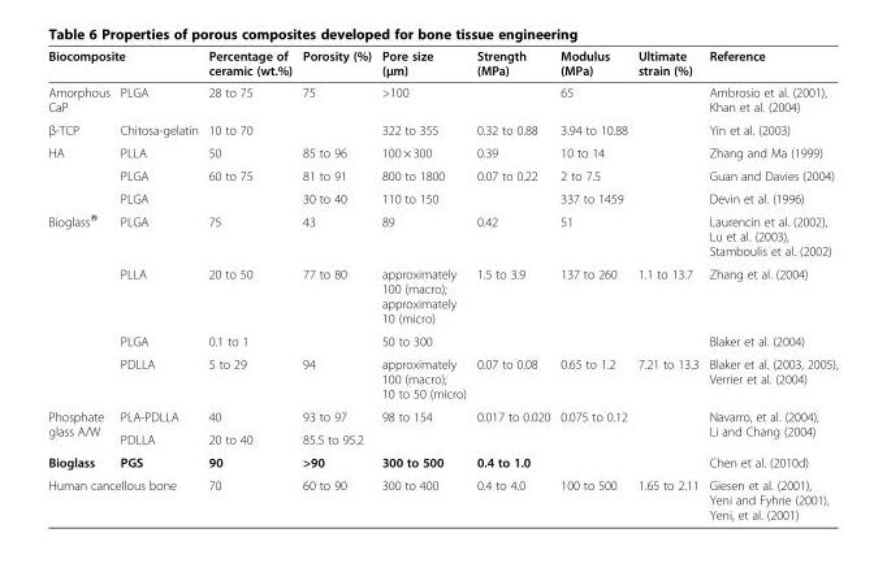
<table><thead><tr><td colspan="2">Biocomposite</td><td rowspan="2">Percentage of ceramic (wt.%) 28 to 75</td><td rowspan="2">Porosity (%) 75</td><td rowspan="2">Pore size (μm) &gt;100</td><td rowspan="2">Strength (MPa)</td><td rowspan="2">Modulus (MPa) 65</td><td rowspan="2">Ultimate strain (%)</td><td rowspan="2">Reference Ambrosio et al. (2001), Khan et al. (2004)</td></tr><tr><td>Amorphous CaP</td><td>PLGA</td></tr></thead><tbody><tr><td>β-TCP</td><td>Chitosa-gelatin</td><td>10 to 70</td><td></td><td>322 to 355</td><td>0.32 to 0.88</td><td>3.94 to 10.88</td><td></td><td>Yin et al. (2003)</td></tr><tr><td rowspan="3">HA</td><td>PLLA</td><td>50</td><td>85 to 96</td><td>100 × 300</td><td>0.39</td><td>10 to 14</td><td></td><td>Zhang and Ma (1999)</td></tr><tr><td>PLGA</td><td>60 to 75</td><td>81 to 91</td><td>800 to 1800</td><td>0.07 to 0.22</td><td>2 to 7.5</td><td></td><td>Guan and Davies (2004)</td></tr><tr><td>PLGA</td><td></td><td>30 to 40</td><td>110 to 150</td><td></td><td>337 to 1459</td><td></td><td>Devin et al. (1996)</td></tr><tr><td rowspan="4">Bioglass®</td><td>PLGA</td><td>75</td><td>43</td><td>89</td><td>0.42</td><td>51</td><td></td><td>Laurencin et al. (2002), Lu et al. (2003), Stamboulis et al. (2002)</td></tr><tr><td>PLLA</td><td>20 to 50</td><td>77 to 80</td><td>approximately 100 (macro); approximately 10 (micro)</td><td>1.5 to 3.9</td><td>137 to 260</td><td>1.1 to 13.7</td><td>Zhang et al. (2004)</td></tr><tr><td>PLGA</td><td>0.1 to 1</td><td></td><td>50 to 300</td><td></td><td></td><td></td><td>Blaker et al. (2004)</td></tr><tr><td>PDLLA</td><td>5 to 29</td><td>94</td><td>approximately 100 (macro); 10 to 50 (micro)</td><td>0.07 to 0.08</td><td>0.65 to 1.2</td><td>7.21 to 13.3</td><td>Blaker et al. (2003, 2005), Verrier et al. (2004)</td></tr><tr><td rowspan="2">Phosphate glass A/W</td><td>PLA-PDLLA</td><td>40</td><td>93 to 97</td><td rowspan="2">98 to 154</td><td rowspan="2">0.017 to 0.020</td><td rowspan="2">0.075 to 0.12</td><td rowspan="2"></td><td rowspan="2">Navarro, et al. (2004), Li and Chang (2004)</td></tr><tr><td>PDLLA</td><td>20 to 40</td><td>85.5 to 95.2</td></tr><tr><td>Bioglass</td><td>PGS</td><td>90</td><td>&gt;90</td><td>300 to 500</td><td>0.4 to 1.0</td><td></td><td></td><td>Chen et al. (2010d)</td></tr><tr><td colspan="2">Human cancellous bone</td><td>70</td><td>60 to 90</td><td>300 to 400</td><td>0.4 to 4.0</td><td>100 to 500</td><td>1.65 to 2.11</td><td>Giesen et al. (2001), Yeni and Fyhrie (2001), Yeni, et al. (2001)</td></tr></tbody></table>